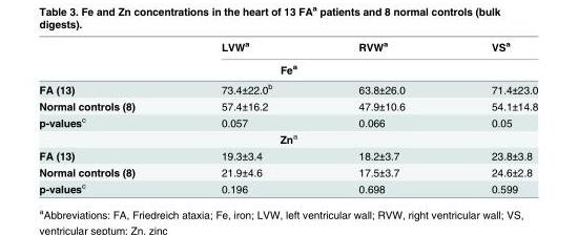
<table><thead><tr><td></td><td>LVW<sup>a</sup></td><td>RVW<sup>a</sup></td><td>VS<sup>a</sup></td></tr><tr><td colspan="4">Fe<sup>a</sup></td></tr></thead><tbody><tr><td>FA (13)</td><td>73.4±22.0<sup>b</sup></td><td>63.8±26.0</td><td>71.4±23.0</td></tr><tr><td>Normal controls (8)</td><td>57.4±16.2</td><td>47.9±10.6</td><td>54.1±14.8</td></tr><tr><td>p-values<sup>c</sup></td><td>0.057</td><td>0.066</td><td>0.05</td></tr><tr><td colspan="4">Zn<sup>a</sup></td></tr><tr><td>FA (13)</td><td>19.3±3.4</td><td>18.2±3.7</td><td>23.8±3.8</td></tr><tr><td>Normal controls (8)</td><td>21.9±4.6</td><td>17.5±3.7</td><td>24.6±2.8</td></tr><tr><td>p-values<sup>c</sup></td><td>0.196</td><td>0.698</td><td>0.599</td></tr></tbody></table>